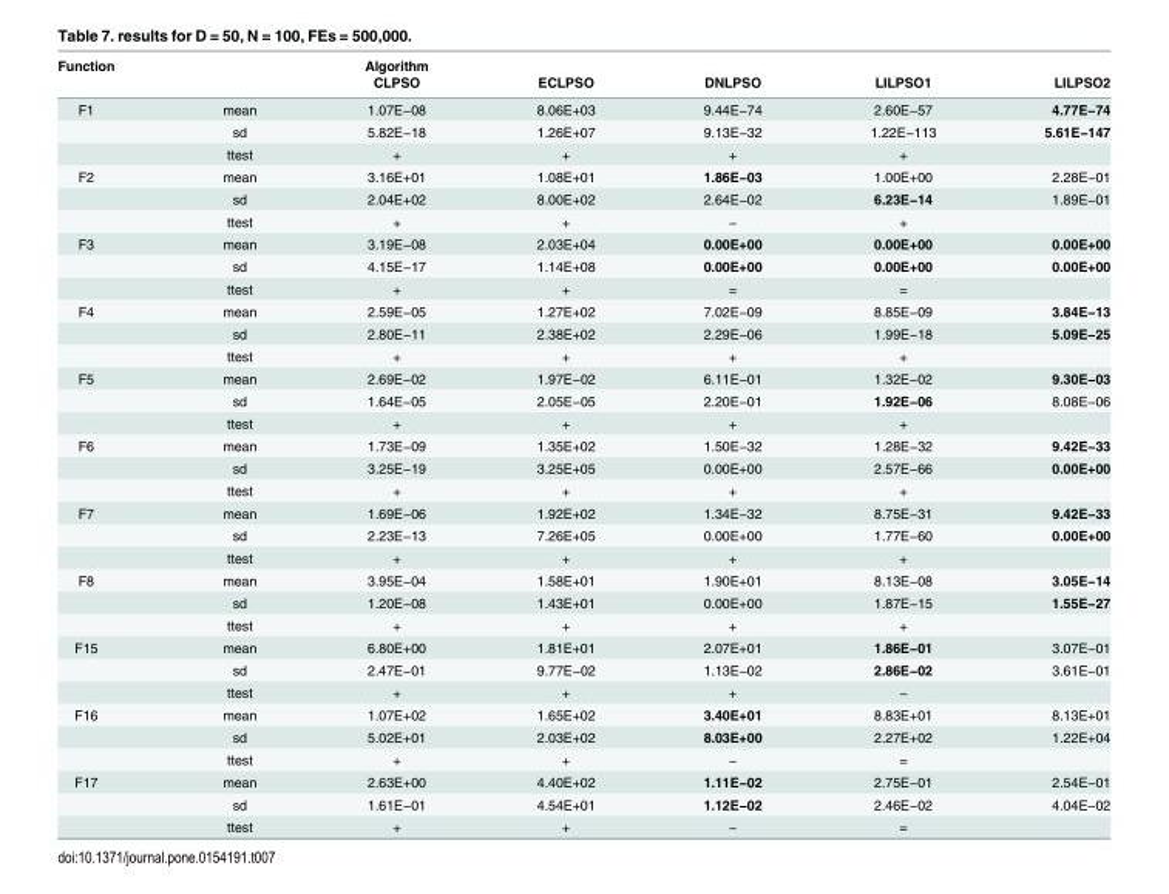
<table><thead><tr><td rowspan="2">Function</td><td rowspan="2"></td><td rowspan="2">Algorithm CLPSO</td><td rowspan="2">ECLPSO</td><td rowspan="2">DNLPSO</td><td rowspan="2">LILPSO1</td><td rowspan="2">LILPSO2</td></tr><tr></tr></thead><tbody><tr><td rowspan="3">F1</td><td>mean</td><td>1.07E−08</td><td>8.06E+03</td><td>9.44E−74</td><td>2.60E−57</td><td>4.77E−74</td></tr><tr><td>sd</td><td>5.82E−18</td><td>1.26E+07</td><td>9.13E−32</td><td>1.22E−113</td><td>5.61E−147</td></tr><tr><td>ttest</td><td>+</td><td>+</td><td>+</td><td>+</td><td></td></tr><tr><td rowspan="3">F2</td><td>mean</td><td>3.16E+01</td><td>1.08E+01</td><td>1.86E−03</td><td>1.00E+00</td><td>2.28E−01</td></tr><tr><td>sd</td><td>2.04E+02</td><td>8.00E+02</td><td>2.64E−02</td><td>6.23E−14</td><td>1.89E−01</td></tr><tr><td>ttest</td><td>+</td><td>+</td><td>−</td><td>+</td><td></td></tr><tr><td rowspan="3">F3</td><td>mean</td><td>3.19E−08</td><td>2.03E+04</td><td>0.00E+00</td><td>0.00E+00</td><td>0.00E+00</td></tr><tr><td>sd</td><td>4.15E−17</td><td>1.14E+08</td><td>0.00E+00</td><td>0.00E+00</td><td>0.00E+00</td></tr><tr><td>ttest</td><td>+</td><td>+</td><td>=</td><td>=</td><td></td></tr><tr><td rowspan="3">F4</td><td>mean</td><td>2.59E−05</td><td>1.27E+02</td><td>7.02E−09</td><td>8.85E−09</td><td>3.84E−13</td></tr><tr><td>sd</td><td>2.80E−11</td><td>2.38E+02</td><td>2.29E−06</td><td>1.99E−18</td><td>5.09E−25</td></tr><tr><td>ttest</td><td>+</td><td>+</td><td>+</td><td>+</td><td></td></tr><tr><td rowspan="3">F5</td><td>mean</td><td>2.69E−02</td><td>1.97E−02</td><td>6.11E−01</td><td>1.32E−02</td><td>9.30E−03</td></tr><tr><td>sd</td><td>1.64E−05</td><td>2.05E−05</td><td>2.20E−01</td><td>1.92E−06</td><td>8.08E−06</td></tr><tr><td>ttest</td><td>+</td><td>+</td><td>+</td><td>+</td><td></td></tr><tr><td rowspan="3">F6</td><td>mean</td><td>1.73E−09</td><td>1.35E+02</td><td>1.50E−32</td><td>1.28E−32</td><td>9.42E−33</td></tr><tr><td>sd</td><td>3.25E−19</td><td>3.25E+05</td><td>0.00E+00</td><td>2.57E−66</td><td>0.00E+00</td></tr><tr><td>ttest</td><td>+</td><td>+</td><td>+</td><td>+</td><td></td></tr><tr><td rowspan="3">F7</td><td>mean</td><td>1.69E−06</td><td>1.92E+02</td><td>1.34E−32</td><td>8.75E−31</td><td>9.42E−33</td></tr><tr><td>sd</td><td>2.23E−13</td><td>7.26E+05</td><td>0.00E+00</td><td>1.77E−60</td><td>0.00E+00</td></tr><tr><td>ttest</td><td>+</td><td>+</td><td>+</td><td>+</td><td></td></tr><tr><td rowspan="3">F8</td><td>mean</td><td>3.95E−04</td><td>1.58E+01</td><td>1.90E+01</td><td>8.13E−08</td><td>3.05E−14</td></tr><tr><td>sd</td><td>1.20E−08</td><td>1.43E+01</td><td>0.00E+00</td><td>1.87E−15</td><td>1.55E−27</td></tr><tr><td>ttest</td><td>+</td><td>+</td><td>+</td><td>+</td><td></td></tr><tr><td rowspan="3">F15</td><td>mean</td><td>6.80E+00</td><td>1.81E+01</td><td>2.07E+01</td><td>1.86E−01</td><td>3.07E−01</td></tr><tr><td>sd</td><td>2.47E−01</td><td>9.77E−02</td><td>1.13E−02</td><td>2.86E−02</td><td>3.61E−01</td></tr><tr><td>ttest</td><td>+</td><td>+</td><td>+</td><td>−</td><td></td></tr><tr><td rowspan="3">F16</td><td>mean</td><td>1.07E+02</td><td>1.65E+02</td><td>3.40E+01</td><td>8.83E+01</td><td>8.13E+01</td></tr><tr><td>sd</td><td>5.02E+01</td><td>2.03E+02</td><td>8.03E+00</td><td>2.27E+02</td><td>1.22E+04</td></tr><tr><td>ttest</td><td>+</td><td>+</td><td>−</td><td>=</td><td></td></tr><tr><td rowspan="3">F17</td><td>mean</td><td>2.63E+00</td><td>4.40E+02</td><td>1.11E−02</td><td>2.75E−01</td><td>2.54E−01</td></tr><tr><td>sd</td><td>1.61E−01</td><td>4.54E+01</td><td>1.12E−02</td><td>2.46E−02</td><td>4.04E−02</td></tr><tr><td>ttest</td><td>+</td><td>+</td><td>−</td><td>=</td><td></td></tr></tbody></table>